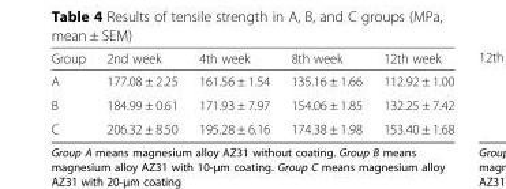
<table><thead><tr><td>Group</td><td>2nd week</td><td>4th week</td><td>8th week</td><td>12th week</td></tr></thead><tbody><tr><td>A</td><td>177.08 ± 2.25</td><td>161.56 ± 1.54</td><td>135.16 ± 1.66</td><td>112.92 ± 1.00</td></tr><tr><td>B</td><td>184.99 ± 0.61</td><td>171.93 ± 7.97</td><td>154.06 ± 1.85</td><td>132.25 ± 7.42</td></tr><tr><td>C</td><td>206.32 ± 8.50</td><td>195.28 ± 6.16</td><td>174.38 ± 1.98</td><td>153.40 ± 1.68</td></tr></tbody></table>